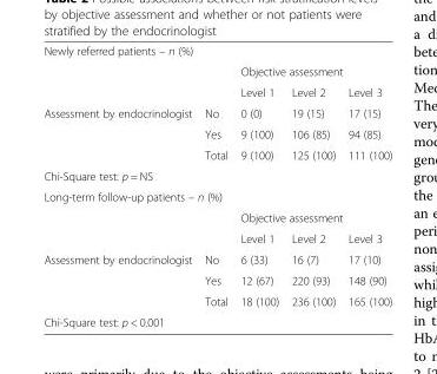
<table><tbody><tr><td colspan="5">Newly referred patients – n (%)</td></tr><tr><td></td><td></td><td colspan="3">Objective assessment</td></tr><tr><td></td><td></td><td>Level 1</td><td>Level 2</td><td>Level 3</td></tr><tr><td rowspan="3">Assessment by endocrinologist</td><td>No</td><td>0 (0)</td><td>19 (15)</td><td>17 (15)</td></tr><tr><td>Yes</td><td>9 (100)</td><td>106 (85)</td><td>94 (85)</td></tr><tr><td>Total</td><td>9 (100)</td><td>125 (100)</td><td>111 (100)</td></tr><tr><td colspan="5">Chi-Square test: p = NS</td></tr><tr><td colspan="5">Long-term follow-up patients – n (%)</td></tr><tr><td></td><td></td><td colspan="3">Objective assessment</td></tr><tr><td></td><td></td><td>Level 1</td><td>Level 2</td><td>Level 3</td></tr><tr><td rowspan="3">Assessment by endocrinologist</td><td>No</td><td>6 (33)</td><td>16 (7)</td><td>17 (10)</td></tr><tr><td>Yes</td><td>12 (67)</td><td>220 (93)</td><td>148 (90)</td></tr><tr><td>Total</td><td>18 (100)</td><td>236 (100)</td><td>165 (100)</td></tr><tr><td colspan="5">Chi-Square test: p &lt; 0.001</td></tr></tbody></table>